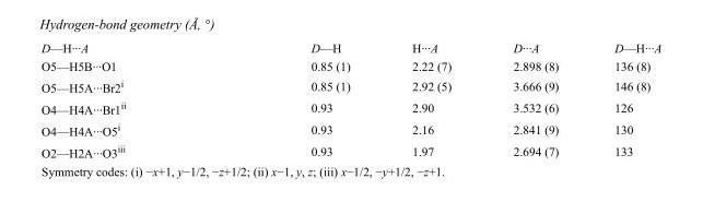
<table><tbody><tr><td>D—H···A</td><td>D—H</td><td>H···A</td><td>D···A</td><td>D—H···A</td></tr><tr><td>O5—H5B···O1</td><td>0.85 (1)</td><td>2.22 (7)</td><td>2.898 (8)</td><td>136 (8)</td></tr><tr><td>O5—H5A···Br2<sup>i</sup></td><td>0.85 (1)</td><td>2.92 (5)</td><td>3.666 (9)</td><td>146 (8)</td></tr><tr><td>O4—H4A···Br1<sup>ii</sup></td><td>0.93</td><td>2.90</td><td>3.532 (6)</td><td>126</td></tr><tr><td>O4—H4A···O5<sup>i</sup></td><td>0.93</td><td>2.16</td><td>2.841 (9)</td><td>130</td></tr><tr><td>O2—H2A···O3<sup>iii</sup></td><td>0.93</td><td>1.97</td><td>2.694 (7)</td><td>133</td></tr></tbody></table>